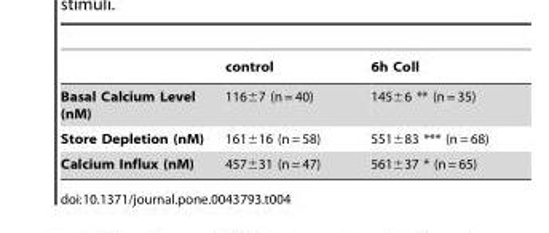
<table><thead><tr><td></td><td>control</td><td>6h Coll</td></tr></thead><tbody><tr><td>Basal Calcium Level (nM)</td><td>116±7 (n = 40)</td><td>145±6 ** (n = 35)</td></tr><tr><td>Store Depletion (nM)</td><td>161±16 (n = 58)</td><td>551±83 *** (n = 68)</td></tr><tr><td>Calcium Influx (nM)</td><td>457±31 (n = 47)</td><td>561±37 * (n = 65)</td></tr></tbody></table>